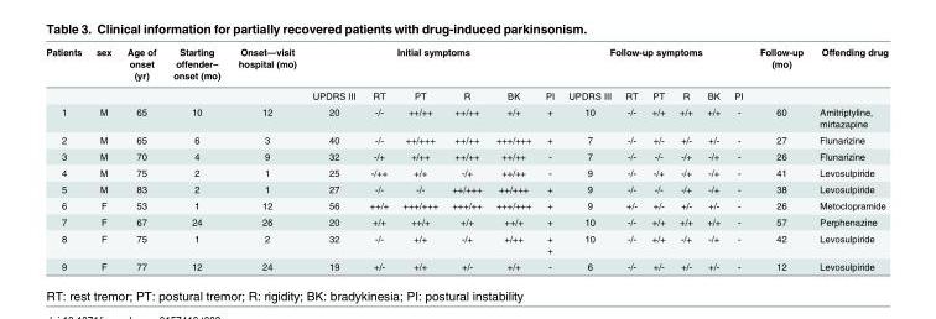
<table><thead><tr><td rowspan="2">Patients</td><td rowspan="2">sex</td><td rowspan="2">Age of onset (yr)</td><td rowspan="2">Starting offender– onset (mo)</td><td rowspan="2">Onset—visit hospital (mo)</td><td colspan="6">Initial symptoms</td><td colspan="6">Follow-up symptoms</td><td rowspan="2">Follow-up (mo)</td><td rowspan="2">Offending drug</td></tr><tr><td>UPDRS III</td><td>RT</td><td>PT</td><td>R</td><td>BK</td><td>PI</td><td>UPDRS III</td><td>RT</td><td>PT</td><td>R</td><td>BK</td><td>PI</td></tr></thead><tbody><tr><td>1</td><td>M</td><td>65</td><td>10</td><td>12</td><td>20</td><td>-/-</td><td>++/++</td><td>++/++</td><td>+/+</td><td>+</td><td>10</td><td>-/-</td><td>+/+</td><td>+/+</td><td>+/+</td><td>-</td><td>60</td><td>Amitriptyline, mirtazapine</td></tr><tr><td>2</td><td>M</td><td>65</td><td>6</td><td>3</td><td>40</td><td>-/-</td><td>++/+++</td><td>++/++</td><td>+++/+++</td><td>+</td><td>7</td><td>-/-</td><td>+/-</td><td>+/-</td><td>+/-</td><td>-</td><td>27</td><td>Flunarizine</td></tr><tr><td>3</td><td>M</td><td>70</td><td>4</td><td>9</td><td>32</td><td>-/+</td><td>+/++</td><td>++/++</td><td>++/++</td><td>-</td><td>7</td><td>-/-</td><td>-/-</td><td>-/+</td><td>-/+</td><td>-</td><td>26</td><td>Flunarizine</td></tr><tr><td>4</td><td>M</td><td>75</td><td>2</td><td>1</td><td>25</td><td>-/++</td><td>+/+</td><td>-/+</td><td>++/++</td><td>-</td><td>9</td><td>-/-</td><td>-/+</td><td>-/+</td><td>-/+</td><td>-</td><td>41</td><td>Levosulpiride</td></tr><tr><td>5</td><td>M</td><td>83</td><td>2</td><td>1</td><td>27</td><td>-/-</td><td>-/-</td><td>++/+++</td><td>++/+++</td><td>+</td><td>9</td><td>-/-</td><td>-/-</td><td>-/+</td><td>-/+</td><td>-</td><td>38</td><td>Levosulpiride</td></tr><tr><td>6</td><td>F</td><td>53</td><td>1</td><td>12</td><td>56</td><td>++/+</td><td>+++/+++</td><td>+++/++</td><td>+++/+++</td><td>+</td><td>9</td><td>+/-</td><td>+/-</td><td>+/-</td><td>+/-</td><td>-</td><td>26</td><td>Metoclopramide</td></tr><tr><td>7</td><td>F</td><td>67</td><td>24</td><td>26</td><td>20</td><td>+/+</td><td>++/+</td><td>+/+</td><td>++/+</td><td>+</td><td>10</td><td>-/-</td><td>+/+</td><td>+/+</td><td>+/+</td><td>-</td><td>57</td><td>Perphenazine</td></tr><tr><td>8</td><td>F</td><td>75</td><td>1</td><td>2</td><td>32</td><td>-/-</td><td>+/+</td><td>-/+</td><td>+/++</td><td>+ +</td><td>10</td><td>-/-</td><td>+/+</td><td>-/+</td><td>-/+</td><td>-</td><td>42</td><td>Levosulpiride</td></tr><tr><td>9</td><td>F</td><td>77</td><td>12</td><td>24</td><td>19</td><td>+/-</td><td>+/+</td><td>+/-</td><td>+/+</td><td>-</td><td>6</td><td>-/-</td><td>+/-</td><td>+/-</td><td>+/-</td><td>-</td><td>12</td><td>Levosulpiride</td></tr></tbody></table>